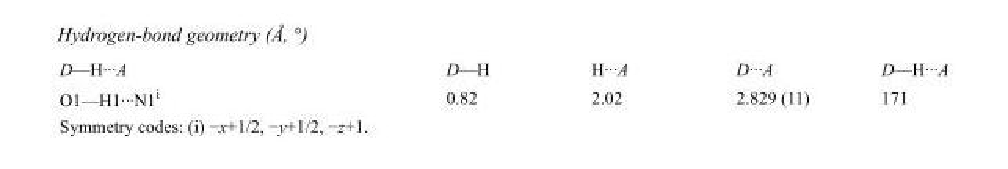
<table><tbody><tr><td>D—H···A</td><td>D—H</td><td>H···A</td><td>D···A</td><td>D—H···A</td></tr><tr><td>O1—H1···N1<sup>i</sup></td><td>0.82</td><td>2.02</td><td>2.829 (11)</td><td>171</td></tr></tbody></table>